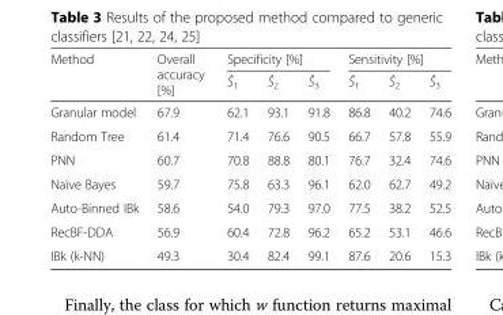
<table><thead><tr><td rowspan="2">Method</td><td rowspan="2">Overall accuracy [%]</td><td colspan="3">Specificity [%]</td><td colspan="3">Sensitivity [%]</td></tr><tr><td>Ŝ<sub>1</sub></td><td>Ŝ<sub>2</sub></td><td>Ŝ<sub>3</sub></td><td>Ŝ<sub>1</sub></td><td>Ŝ<sub>2</sub></td><td>Ŝ<sub>3</sub></td></tr></thead><tbody><tr><td>Granular model</td><td>67.9</td><td>62.1</td><td>93.1</td><td>91.8</td><td>86.8</td><td>40.2</td><td>74.6</td></tr><tr><td>Random Tree</td><td>61.4</td><td>71.4</td><td>76.6</td><td>90.5</td><td>66.7</td><td>57.8</td><td>55.9</td></tr><tr><td>PNN</td><td>60.7</td><td>70.8</td><td>88.8</td><td>80.1</td><td>76.7</td><td>32.4</td><td>74.6</td></tr><tr><td>Naïve Bayes</td><td>59.7</td><td>75.8</td><td>63.3</td><td>96.1</td><td>62.0</td><td>62.7</td><td>49.2</td></tr><tr><td>Auto-Binned IBk</td><td>58.6</td><td>54.0</td><td>79.3</td><td>97.0</td><td>77.5</td><td>38.2</td><td>52.5</td></tr><tr><td>RecBF-DDA</td><td>56.9</td><td>60.4</td><td>72.8</td><td>96.2</td><td>65.2</td><td>53.1</td><td>46.6</td></tr><tr><td>IBk (k-NN)</td><td>49.3</td><td>30.4</td><td>82.4</td><td>99.1</td><td>87.6</td><td>20.6</td><td>15.3</td></tr></tbody></table>